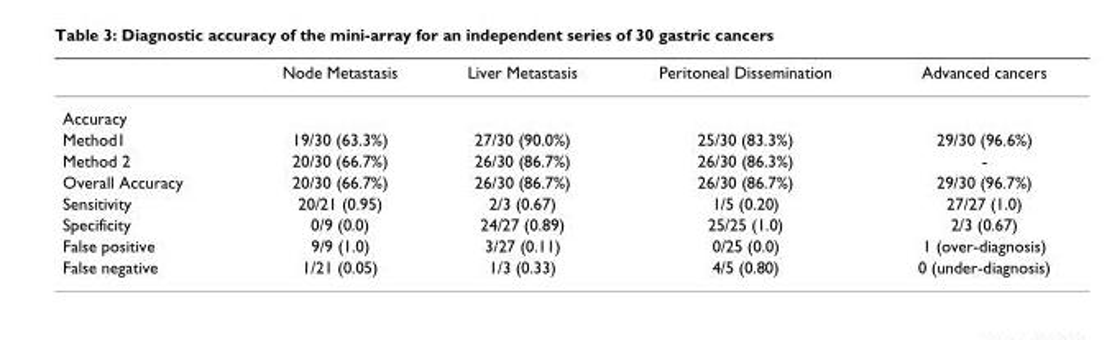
<table><thead><tr><td></td><td>Node Metastasis</td><td>Liver Metastasis</td><td>Peritoneal Dissemination</td><td>Advanced cancers</td></tr></thead><tbody><tr><td colspan="5">Accuracy</td></tr><tr><td>Method1</td><td>19/30 (63.3%)</td><td>27/30 (90.0%)</td><td>25/30 (83.3%)</td><td>29/30 (96.6%)</td></tr><tr><td>Method 2</td><td>20/30 (66.7%)</td><td>26/30 (86.7%)</td><td>26/30 (86.3%)</td><td>-</td></tr><tr><td>Overall Accuracy</td><td>20/30 (66.7%)</td><td>26/30 (86.7%)</td><td>26/30 (86.7%)</td><td>29/30 (96.7%)</td></tr><tr><td>Sensitivity</td><td>20/21 (0.95)</td><td>2/3 (0.67)</td><td>1/5 (0.20)</td><td>27/27 (1.0)</td></tr><tr><td>Specificity</td><td>0/9 (0.0)</td><td>24/27 (0.89)</td><td>25/25 (1.0)</td><td>2/3 (0.67)</td></tr><tr><td>False positive</td><td>9/9 (1.0)</td><td>3/27 (0.11)</td><td>0/25 (0.0)</td><td>1 (over-diagnosis)</td></tr><tr><td>False negative</td><td>1/21 (0.05)</td><td>1/3 (0.33)</td><td>4/5 (0.80)</td><td>0 (under-diagnosis)</td></tr></tbody></table>